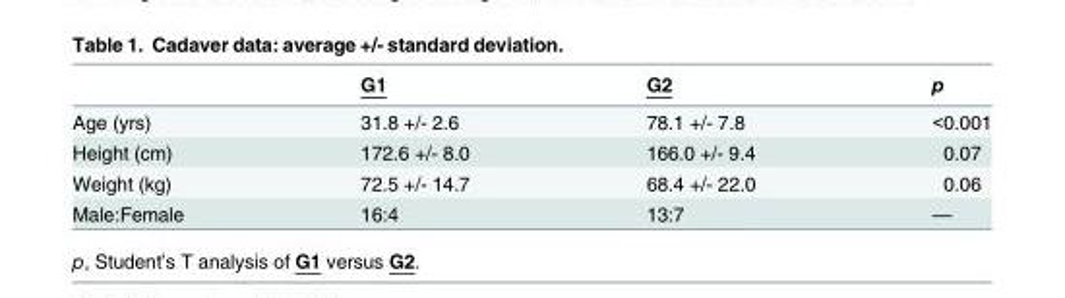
<table><thead><tr><td></td><td>G1</td><td>G2</td><td>p</td></tr></thead><tbody><tr><td>Age (yrs)</td><td>31.8 +/- 2.6</td><td>78.1 +/- 7.8</td><td>&lt;0.001</td></tr><tr><td>Height (cm)</td><td>172.6 +/- 8.0</td><td>166.0 +/- 9.4</td><td>0.07</td></tr><tr><td>Weight (kg)</td><td>72.5 +/- 14.7</td><td>68.4 +/- 22.0</td><td>0.06</td></tr><tr><td>Male:Female</td><td>16:4</td><td>13:7</td><td>—</td></tr></tbody></table>